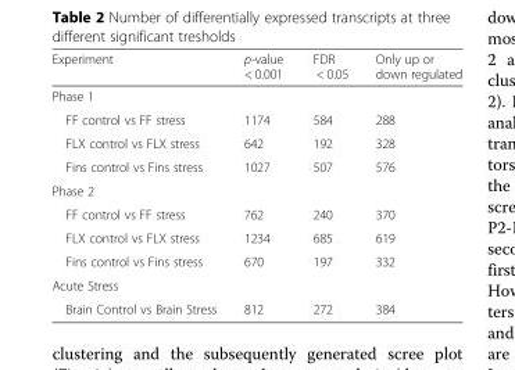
<table><thead><tr><td>Experiment</td><td>p-value &lt; 0.001</td><td>FDR &lt; 0.05</td><td>Only up or down regulated</td></tr></thead><tbody><tr><td colspan="4">Phase 1</td></tr><tr><td>FF control vs FF stress</td><td>1174</td><td>584</td><td>288</td></tr><tr><td>FLX control vs FLX stress</td><td>642</td><td>192</td><td>328</td></tr><tr><td>Fins control vs Fins stress</td><td>1027</td><td>507</td><td>576</td></tr><tr><td colspan="4">Phase 2</td></tr><tr><td>FF control vs FF stress</td><td>762</td><td>240</td><td>370</td></tr><tr><td>FLX control vs FLX stress</td><td>1234</td><td>685</td><td>619</td></tr><tr><td>Fins control vs Fins stress</td><td>670</td><td>197</td><td>332</td></tr><tr><td colspan="4">Acute Stress</td></tr><tr><td>Brain Control vs Brain Stress</td><td>812</td><td>272</td><td>384</td></tr></tbody></table>